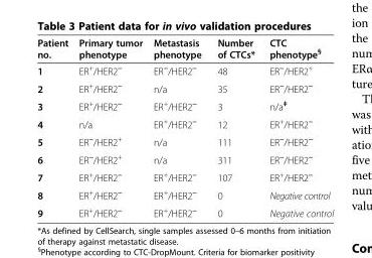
<table><thead><tr><td>Patient no.</td><td>Primary tumor phenotype</td><td>Metastasis phenotype</td><td>Number of CTCs*</td><td>CTC phenotype<sup>§</sup></td></tr></thead><tbody><tr><td>1</td><td>ER<sup>+</sup>/HER2<sup>−</sup></td><td>ER<sup>−</sup>/HER2<sup>−</sup></td><td>48</td><td>ER<sup>−</sup>/HER2<sup>+</sup></td></tr><tr><td>2</td><td>ER<sup>+</sup>/HER2<sup>−</sup></td><td>n/a</td><td>35</td><td>ER<sup>−</sup>/HER2<sup>−</sup></td></tr><tr><td>3</td><td>ER<sup>+</sup>/HER2<sup>−</sup></td><td>ER<sup>+</sup>/HER2<sup>−</sup></td><td>3</td><td>n/a<sup>‡</sup></td></tr><tr><td>4</td><td>n/a</td><td>ER<sup>+</sup>/HER2<sup>−</sup></td><td>12</td><td>ER<sup>+</sup>/HER2<sup>−</sup></td></tr><tr><td>5</td><td>ER<sup>−</sup>/HER2<sup>+</sup></td><td>n/a</td><td>111</td><td>ER<sup>−</sup>/HER2<sup>−</sup></td></tr><tr><td>6</td><td>ER<sup>−</sup>/HER2<sup>+</sup></td><td>n/a</td><td>311</td><td>ER<sup>−</sup>/HER2<sup>−</sup></td></tr><tr><td>7</td><td>ER<sup>+</sup>/HER2<sup>−</sup></td><td>ER<sup>+</sup>/HER2<sup>−</sup></td><td>107</td><td>ER<sup>+</sup>/HER2<sup>−</sup></td></tr><tr><td>8</td><td>ER<sup>+</sup>/HER2<sup>−</sup></td><td>ER<sup>+</sup>/HER2<sup>−</sup></td><td>0</td><td>Negative control</td></tr><tr><td>9</td><td>ER<sup>+</sup>/HER2<sup>−</sup></td><td>ER<sup>+</sup>/HER2<sup>−</sup></td><td>0</td><td>Negative control</td></tr></tbody></table>